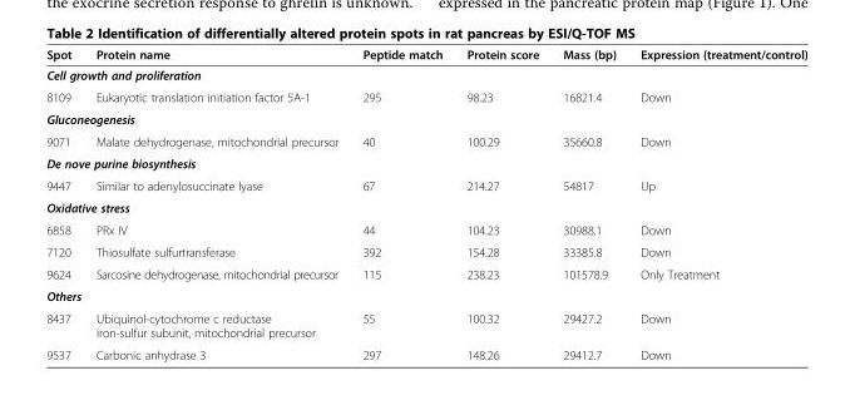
<table><thead><tr><td>Spot</td><td>Protein name</td><td>Peptide match</td><td>Protein score</td><td>Mass (bp)</td><td>Expression (treatment/control)</td></tr></thead><tbody><tr><td colspan="6">Cell growth and proliferation</td></tr><tr><td>8109</td><td>Eukaryotic translation initiation factor 5A-1</td><td>295</td><td>98.23</td><td>16821.4</td><td>Down</td></tr><tr><td colspan="6">Gluconeogenesis</td></tr><tr><td>9071</td><td>Malate dehydrogenase, mitochondrial precursor</td><td>40</td><td>100.29</td><td>35660.8</td><td>Down</td></tr><tr><td colspan="6">De nove purine biosynthesis</td></tr><tr><td>9447</td><td>Similar to adenylosuccinate lyase</td><td>67</td><td>214.27</td><td>54817</td><td>Up</td></tr><tr><td colspan="6">Oxidative stress</td></tr><tr><td>6858</td><td>PRx IV</td><td>44</td><td>104.23</td><td>30988.1</td><td>Down</td></tr><tr><td>7120</td><td>Thiosulfate sulfurtransferase</td><td>392</td><td>154.28</td><td>33385.8</td><td>Down</td></tr><tr><td>9624</td><td>Sarcosine dehydrogenase, mitochondrial precursor</td><td>115</td><td>238.23</td><td>101578.9</td><td>Only Treatment</td></tr><tr><td colspan="6">Others</td></tr><tr><td>8437</td><td>Ubiquinol-cytochrome c reductase iron-sulfur subunit, mitochondrial precursor</td><td>55</td><td>100.32</td><td>29427.2</td><td>Down</td></tr><tr><td>9537</td><td>Carbonic anhydrase 3</td><td>297</td><td>148.26</td><td>29412.7</td><td>Down</td></tr></tbody></table>